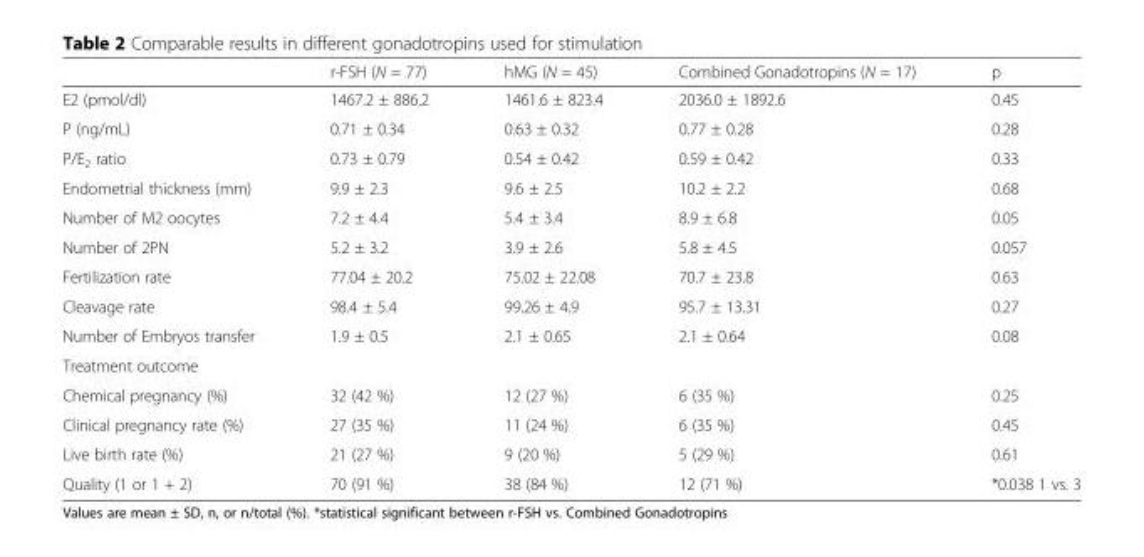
<table><thead><tr><td></td><td>r-FSH (N = 77)</td><td>hMG (N = 45)</td><td>Combined Gonadotropins (N = 17)</td><td>p</td></tr></thead><tbody><tr><td>E2 (pmol/dl)</td><td>1467.2 ± 886.2</td><td>1461.6 ± 823.4</td><td>2036.0 ± 1892.6</td><td>0.45</td></tr><tr><td>P (ng/mL)</td><td>0.71 ± 0.34</td><td>0.63 ± 0.32</td><td>0.77 ± 0.28</td><td>0.28</td></tr><tr><td>P/E<sub>2</sub> ratio</td><td>0.73 ± 0.79</td><td>0.54 ± 0.42</td><td>0.59 ± 0.42</td><td>0.33</td></tr><tr><td>Endometrial thickness (mm)</td><td>9.9 ± 2.3</td><td>9.6 ± 2.5</td><td>10.2 ± 2.2</td><td>0.68</td></tr><tr><td>Number of M2 oocytes</td><td>7.2 ± 4.4</td><td>5.4 ± 3.4</td><td>8.9 ± 6.8</td><td>0.05</td></tr><tr><td>Number of 2PN</td><td>5.2 ± 3.2</td><td>3.9 ± 2.6</td><td>5.8 ± 4.5</td><td>0.057</td></tr><tr><td>Fertilization rate</td><td>77.04 ± 20.2</td><td>75.02 ± 22.08</td><td>70.7 ± 23.8</td><td>0.63</td></tr><tr><td>Cleavage rate</td><td>98.4 ± 5.4</td><td>99.26 ± 4.9</td><td>95.7 ± 13.31</td><td>0.27</td></tr><tr><td>Number of Embryos transfer</td><td>1.9 ± 0.5</td><td>2.1 ± 0.65</td><td>2.1 ± 0.64</td><td>0.08</td></tr><tr><td colspan="5">Treatment outcome</td></tr><tr><td>Chemical pregnancy (%)</td><td>32 (42 %)</td><td>12 (27 %)</td><td>6 (35 %)</td><td>0.25</td></tr><tr><td>Clinical pregnancy rate (%)</td><td>27 (35 %)</td><td>11 (24 %)</td><td>6 (35 %)</td><td>0.45</td></tr><tr><td>Live birth rate (%)</td><td>21 (27 %)</td><td>9 (20 %)</td><td>5 (29 %)</td><td>0.61</td></tr><tr><td>Quality (1 or 1 + 2)</td><td>70 (91 %)</td><td>38 (84 %)</td><td>12 (71 %)</td><td>*0.038 1 vs. 3</td></tr></tbody></table>